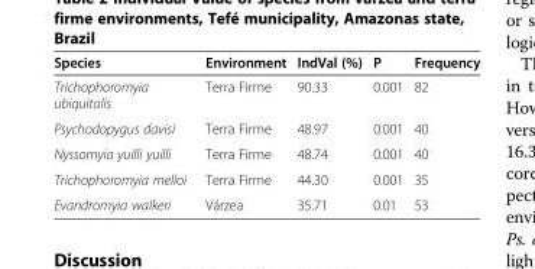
<table><thead><tr><td>Species</td><td>Environment</td><td>IndVal (%)</td><td>P</td><td>Frequency</td></tr></thead><tbody><tr><td>Trichophoromyia ubiquitalis</td><td>Terra Firme</td><td>90.33</td><td>0.001</td><td>82</td></tr><tr><td>Psychodopygus davisi</td><td>Terra Firme</td><td>48.97</td><td>0.001</td><td>40</td></tr><tr><td>Nyssomyia yuilli yuilli</td><td>Terra Firme</td><td>48.74</td><td>0.001</td><td>40</td></tr><tr><td>Trichophoromyia melloi</td><td>Terra Firme</td><td>44.30</td><td>0.001</td><td>35</td></tr><tr><td>Evandromyia walkeri</td><td>Várzea</td><td>35.71</td><td>0.01</td><td>53</td></tr></tbody></table>